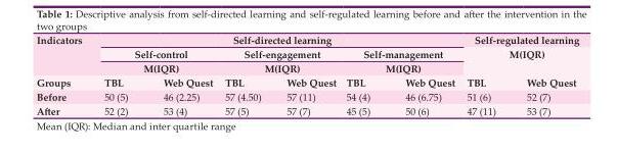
<table><thead><tr><td rowspan="4">Indicators Groups</td><td colspan="6">Self-directed learning</td><td rowspan="3" colspan="2">Self-regulated learning M(IQR)</td></tr><tr><td rowspan="2" colspan="2">Self-control M(IQR)</td><td rowspan="2" colspan="2">Self-engagement M(IQR)</td><td rowspan="2" colspan="2">Self-management M(IQR)</td></tr><tr></tr><tr><td>TBL</td><td>Web Quest</td><td>TBL</td><td>Web Quest</td><td>TBL</td><td>Web Quest</td><td>TBL</td><td>Web Quest</td></tr></thead><tbody><tr><td>Before</td><td>50 (5)</td><td>46 (2.25)</td><td>57 (4.50)</td><td>57 (11)</td><td>54 (4)</td><td>46 (6.75)</td><td>51 (6)</td><td>52 (7)</td></tr><tr><td>After</td><td>52 (2)</td><td>53 (4)</td><td>57 (5)</td><td>57 (7)</td><td>45 (5)</td><td>50 (6)</td><td>47 (11)</td><td>53 (7)</td></tr></tbody></table>